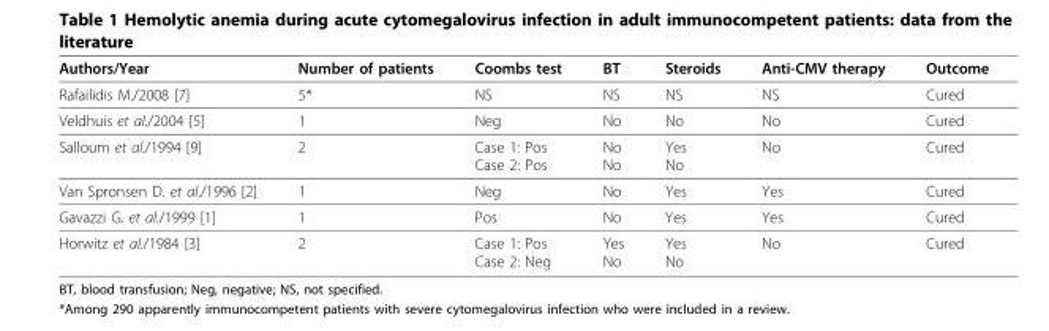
<table><thead><tr><td>Authors/Year</td><td>Number of patients</td><td>Coombs test</td><td>BT</td><td>Steroids</td><td>Anti-CMV therapy</td><td>Outcome</td></tr></thead><tbody><tr><td>Rafailidis M./2008 [7]</td><td>5*</td><td>NS</td><td>NS</td><td>NS</td><td>NS</td><td>Cured</td></tr><tr><td>Veldhuis et al./2004 [5]</td><td>1</td><td>Neg</td><td>No</td><td>No</td><td>No</td><td>Cured</td></tr><tr><td>Salloum et al./1994 [9]</td><td>2</td><td>Case 1: Pos Case 2: Pos</td><td>No No</td><td>Yes No</td><td>No</td><td>Cured</td></tr><tr><td>Van Spronsen D. et al./1996 [2]</td><td>1</td><td>Neg</td><td>No</td><td>Yes</td><td>Yes</td><td>Cured</td></tr><tr><td>Gavazzi G. et al./1999 [1]</td><td>1</td><td>Pos</td><td>No</td><td>Yes</td><td>Yes</td><td>Cured</td></tr><tr><td>Horwitz et al./1984 [3]</td><td>2</td><td>Case 1: Pos Case 2: Neg</td><td>Yes No</td><td>Yes No</td><td>No</td><td>Cured</td></tr></tbody></table>